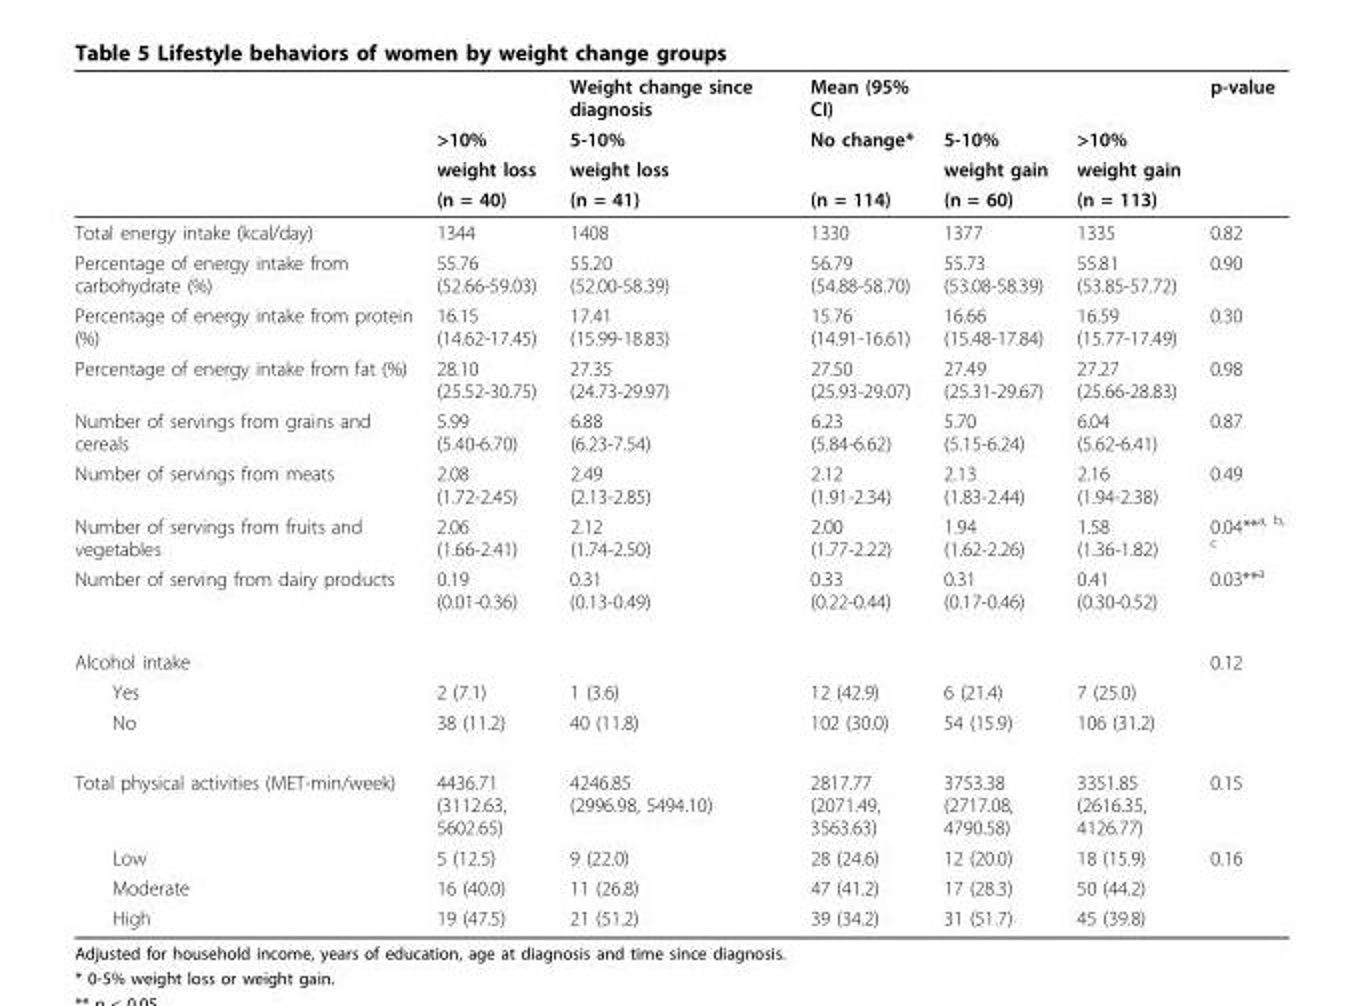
<table><thead><tr><td rowspan="4"></td><td rowspan="4">&gt;10% weight loss (n = 40)</td><td rowspan="4">Weight change since diagnosis 5-10% weight loss (n = 41)</td><td rowspan="4">Mean (95% CI) No change* (n = 114)</td><td rowspan="4">5-10% weight gain (n = 60)</td><td rowspan="4">&gt;10% weight gain (n = 113)</td><td rowspan="4">p-value</td></tr><tr></tr><tr></tr><tr></tr></thead><tbody><tr><td>Total energy intake (kcal/day)</td><td>1344</td><td>1408</td><td>1330</td><td>1377</td><td>1335</td><td>0.82</td></tr><tr><td>Percentage of energy intake from carbohydrate (%)</td><td>55.76 (52.66-59.03)</td><td>55.20 (52.00-58.39)</td><td>56.79 (54.88-58.70)</td><td>55.73 (53.08-58.39)</td><td>55.81 (53.85-57.72)</td><td>0.90</td></tr><tr><td>Percentage of energy intake from protein (%)</td><td>16.15 (14.62-17.45)</td><td>17.41 (15.99-18.83)</td><td>15.76 (14.91-16.61)</td><td>16.66 (15.48-17.84)</td><td>16.59 (15.77-17.49)</td><td>0.30</td></tr><tr><td>Percentage of energy intake from fat (%)</td><td>28.10 (25.52-30.75)</td><td>27.35 (24.73-29.97)</td><td>27.50 (25.93-29.07)</td><td>27.49 (25.31-29.67)</td><td>27.27 (25.66-28.83)</td><td>0.98</td></tr><tr><td>Number of servings from grains and cereals</td><td>5.99 (5.40-6.70)</td><td>6.88 (6.23-7.54)</td><td>6.23 (5.84-6.62)</td><td>5.70 (5.15-6.24)</td><td>6.04 (5.62-6.41)</td><td>0.87</td></tr><tr><td>Number of servings from meats</td><td>2.08 (1.72-2.45)</td><td>2.49 (2.13-2.85)</td><td>2.12 (1.91-2.34)</td><td>2.13 (1.83-2.44)</td><td>2.16 (1.94-2.38)</td><td>0.49</td></tr><tr><td>Number of servings from fruits and vegetables</td><td>2.06 (1.66-2.41)</td><td>2.12 (1.74-2.50)</td><td>2.00 (1.77-2.22)</td><td>1.94 (1.62-2.26)</td><td>1.58 (1.36-1.82)</td><td>0.04**<sup>a, b, c</sup></td></tr><tr><td>Number of serving from dairy products</td><td>0.19 (0.01-0.36)</td><td>0.31 (0.13-0.49)</td><td>0.33 (0.22-0.44)</td><td>0.31 (0.17-0.46)</td><td>0.41 (0.30-0.52)</td><td>0.03**<sup>a</sup></td></tr><tr><td>Alcohol intake</td><td></td><td></td><td></td><td></td><td></td><td>0.12</td></tr><tr><td>Yes</td><td>2 (7.1)</td><td>1 (3.6)</td><td>12 (42.9)</td><td>6 (21.4)</td><td>7 (25.0)</td><td></td></tr><tr><td>No</td><td>38 (11.2)</td><td>40 (11.8)</td><td>102 (30.0)</td><td>54 (15.9)</td><td>106 (31.2)</td><td></td></tr><tr><td>Total physical activities (MET-min/week)</td><td>4436.71 (3112.63, 5602.65)</td><td>4246.85 (2996.98, 5494.10)</td><td>2817.77 (2071.49, 3563.63)</td><td>3753.38 (2717.08, 4790.58)</td><td>3351.85 (2616.35, 4126.77)</td><td>0.15</td></tr><tr><td>Low</td><td>5 (12.5)</td><td>9 (22.0)</td><td>28 (24.6)</td><td>12 (20.0)</td><td>18 (15.9)</td><td>0.16</td></tr><tr><td>Moderate</td><td>16 (40.0)</td><td>11 (26.8)</td><td>47 (41.2)</td><td>17 (28.3)</td><td>50 (44.2)</td><td></td></tr><tr><td>High</td><td>19 (47.5)</td><td>21 (51.2)</td><td>39 (34.2)</td><td>31 (51.7)</td><td>45 (39.8)</td><td></td></tr></tbody></table>